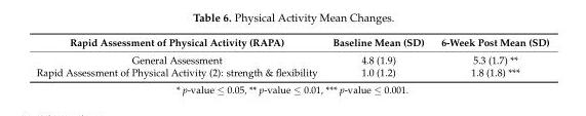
<table><thead><tr><td>Rapid Assessment of Physical Activity (RAPA)</td><td>Baseline Mean (SD)</td><td>6-Week Post Mean (SD)</td></tr></thead><tbody><tr><td>General Assessment</td><td>4.8 (1.9)</td><td>5.3 (1.7) **</td></tr><tr><td>Rapid Assessment of Physical Activity (2): strength &amp; flexibility</td><td>1.0 (1.2)</td><td>1.8 (1.8) ***</td></tr></tbody></table>